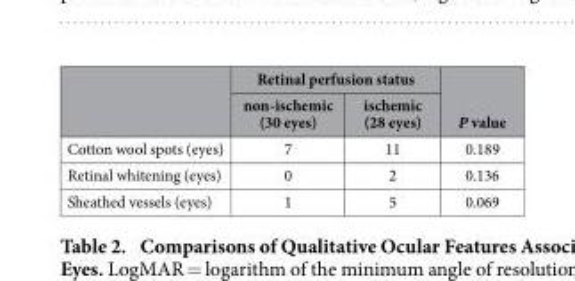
<table><thead><tr><td rowspan="2"></td><td colspan="2">Retinal perfusion status</td><td rowspan="2">P value</td></tr><tr><td>non-ischemic (30 eyes)</td><td>ischemic (28 eyes)</td></tr></thead><tbody><tr><td>Cotton wool spots (eyes)</td><td>7</td><td>11</td><td>0.189</td></tr><tr><td>Retinal whitening (eyes)</td><td>0</td><td>2</td><td>0.136</td></tr><tr><td>Sheathed vessels (eyes)</td><td>1</td><td>5</td><td>0.069</td></tr></tbody></table>